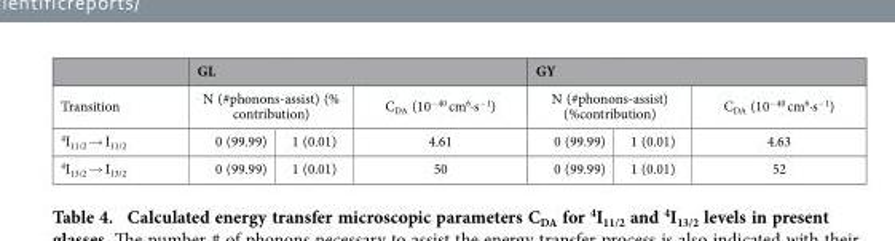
<table><thead><tr><td rowspan="3">Transition <sup>4</sup>I<sub>11/2</sub> → I<sub>11/2</sub></td><td colspan="3">GL</td><td colspan="3">GY</td></tr><tr><td colspan="2">N (#phonons-assist) (% contribution)</td><td rowspan="2">C<sub>DA</sub> (10<sup>−40</sup> cm<sup>6</sup>·s<sup>−1</sup>) 4.61</td><td colspan="2">N (#phonons-assist) (%contribution)</td><td rowspan="2">C<sub>DA</sub> (10<sup>−40</sup> cm<sup>6</sup>·s<sup>−1</sup>) 4.63</td></tr><tr><td>0 (99.99)</td><td>1 (0.01)</td><td>0 (99.99)</td><td>1 (0.01)</td></tr></thead><tbody><tr><td><sup>4</sup>I<sub>13/2</sub> → I<sub>13/2</sub></td><td>0 (99.99)</td><td>1 (0.01)</td><td>50</td><td>0 (99.99)</td><td>1 (0.01)</td><td>52</td></tr></tbody></table>